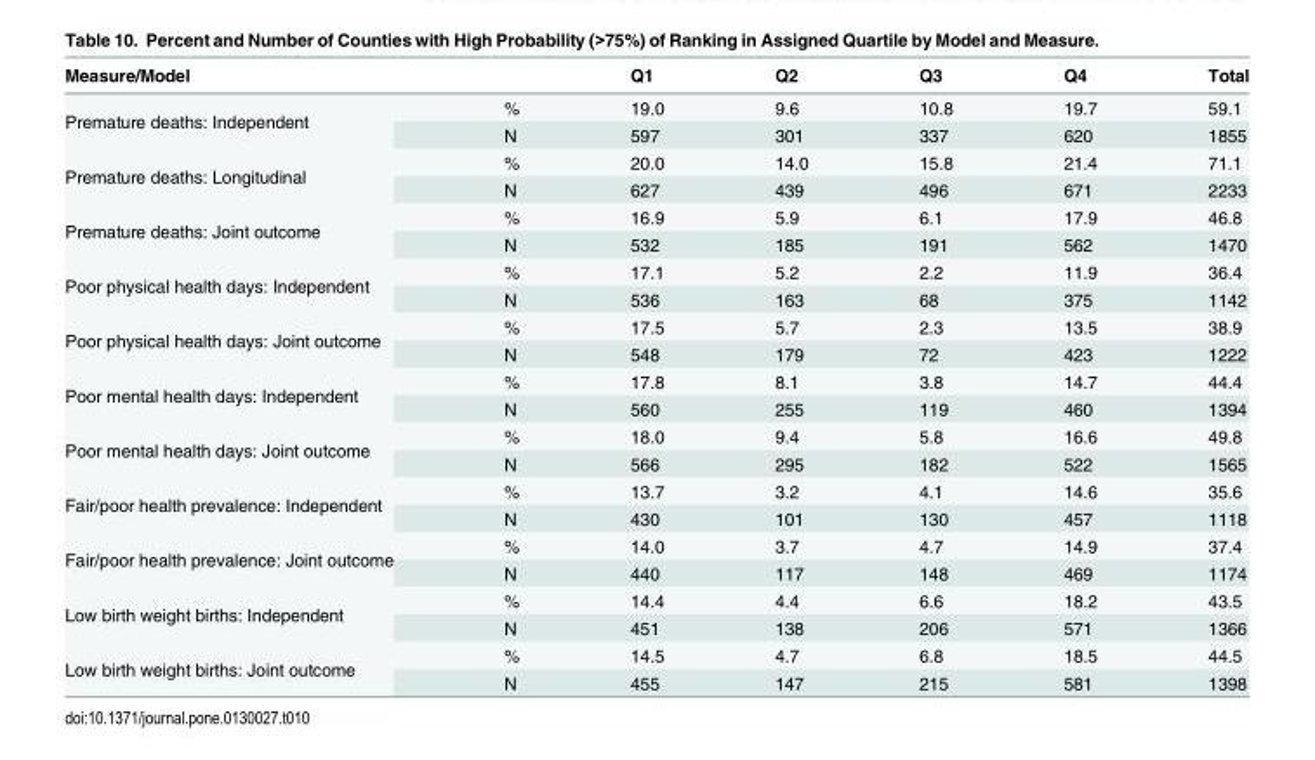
<table><thead><tr><td>Measure/Model</td><td></td><td>Q1</td><td>Q2</td><td>Q3</td><td>Q4</td><td>Total</td></tr></thead><tbody><tr><td rowspan="2">Premature deaths: Independent</td><td>%</td><td>19.0</td><td>9.6</td><td>10.8</td><td>19.7</td><td>59.1</td></tr><tr><td>N</td><td>597</td><td>301</td><td>337</td><td>620</td><td>1855</td></tr><tr><td rowspan="2">Premature deaths: Longitudinal</td><td>%</td><td>20.0</td><td>14.0</td><td>15.8</td><td>21.4</td><td>71.1</td></tr><tr><td>N</td><td>627</td><td>439</td><td>496</td><td>671</td><td>2233</td></tr><tr><td rowspan="2">Premature deaths: Joint outcome</td><td>%</td><td>16.9</td><td>5.9</td><td>6.1</td><td>17.9</td><td>46.8</td></tr><tr><td>N</td><td>532</td><td>185</td><td>191</td><td>562</td><td>1470</td></tr><tr><td rowspan="2">Poor physical health days: Independent</td><td>%</td><td>17.1</td><td>5.2</td><td>2.2</td><td>11.9</td><td>36.4</td></tr><tr><td>N</td><td>536</td><td>163</td><td>68</td><td>375</td><td>1142</td></tr><tr><td rowspan="2">Poor physical health days: Joint outcome</td><td>%</td><td>17.5</td><td>5.7</td><td>2.3</td><td>13.5</td><td>38.9</td></tr><tr><td>N</td><td>548</td><td>179</td><td>72</td><td>423</td><td>1222</td></tr><tr><td rowspan="2">Poor mental health days: Independent</td><td>%</td><td>17.8</td><td>8.1</td><td>3.8</td><td>14.7</td><td>44.4</td></tr><tr><td>N</td><td>560</td><td>255</td><td>119</td><td>460</td><td>1394</td></tr><tr><td rowspan="2">Poor mental health days: Joint outcome</td><td>%</td><td>18.0</td><td>9.4</td><td>5.8</td><td>16.6</td><td>49.8</td></tr><tr><td>N</td><td>566</td><td>295</td><td>182</td><td>522</td><td>1565</td></tr><tr><td rowspan="2">Fair/poor health prevalence: Independent</td><td>%</td><td>13.7</td><td>3.2</td><td>4.1</td><td>14.6</td><td>35.6</td></tr><tr><td>N</td><td>430</td><td>101</td><td>130</td><td>457</td><td>1118</td></tr><tr><td rowspan="2">Fair/poor health prevalence: Joint outcome</td><td>%</td><td>14.0</td><td>3.7</td><td>4.7</td><td>14.9</td><td>37.4</td></tr><tr><td>N</td><td>440</td><td>117</td><td>148</td><td>469</td><td>1174</td></tr><tr><td rowspan="2">Low birth weight births: Independent</td><td>%</td><td>14.4</td><td>4.4</td><td>6.6</td><td>18.2</td><td>43.5</td></tr><tr><td>N</td><td>451</td><td>138</td><td>206</td><td>571</td><td>1366</td></tr><tr><td rowspan="2">Low birth weight births: Joint outcome</td><td>%</td><td>14.5</td><td>4.7</td><td>6.8</td><td>18.5</td><td>44.5</td></tr><tr><td>N</td><td>455</td><td>147</td><td>215</td><td>581</td><td>1398</td></tr></tbody></table>